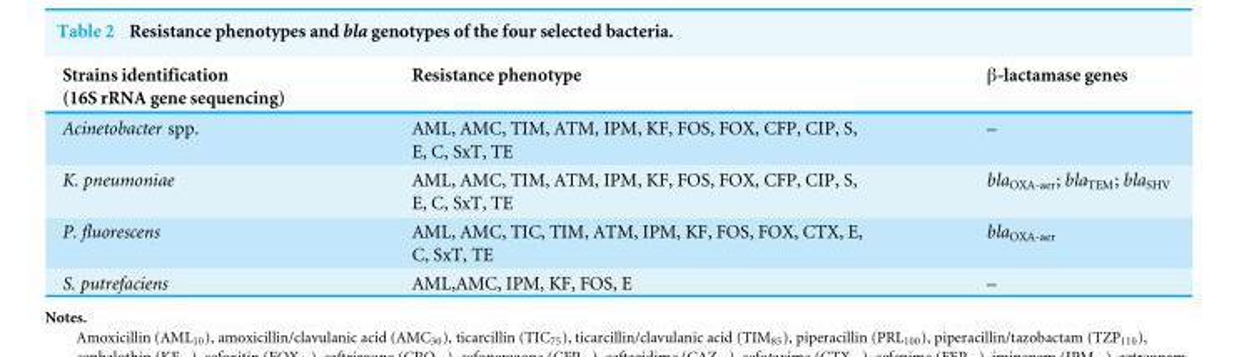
<table><thead><tr><td>Strains identification (16S rRNA gene sequencing)</td><td>Resistance phenotype</td><td>β-lactamase genes</td></tr></thead><tbody><tr><td>Acinetobacter spp.</td><td>AML, AMC, TIM, ATM, IPM, KF, FOS, FOX, CFP, CIP, S, E, C, SxT, TE</td><td>–</td></tr><tr><td>K. pneumoniae</td><td>AML, AMC, TIM, ATM, IPM, KF, FOS, FOX, CFP, CIP, S, E, C, SxT, TE</td><td>bla<sub>OXA-aer</sub>; bla<sub>TEM</sub>; bla<sub>SHV</sub></td></tr><tr><td>P. fluorescens</td><td>AML, AMC, TIC, TIM, ATM, IPM, KF, FOS, FOX, CTX, E, C, SxT, TE</td><td>bla<sub>OXA-aer</sub></td></tr><tr><td>S. putrefaciens</td><td>AML,AMC, IPM, KF, FOS, E</td><td>–</td></tr></tbody></table>